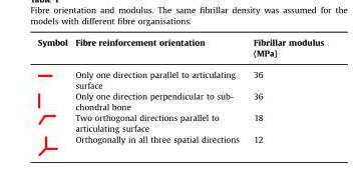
<table><thead><tr><td>Symbol</td><td>Fibre reinforcement orientation</td><td>Fibrillar modulus (MPa)</td></tr></thead><tbody><tr><td></td><td>Only one direction parallel to articulating surface</td><td>36</td></tr><tr><td></td><td>Only one direction perpendicular to sub- chondral bone</td><td>36</td></tr><tr><td></td><td>Two orthogonal directions parallel to articulating surface</td><td>18</td></tr><tr><td></td><td>Orthogonally in all three spatial directions</td><td>12</td></tr></tbody></table>